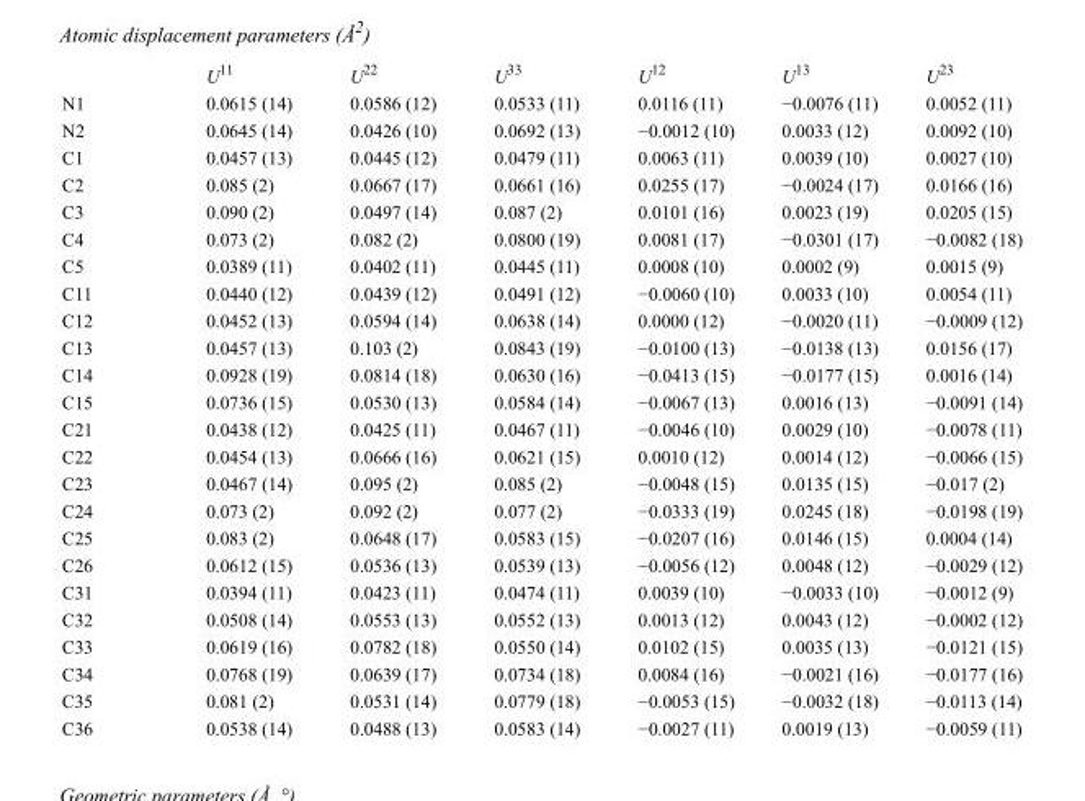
<table><thead><tr><td></td><td>U<sup>11</sup></td><td>U<sup>22</sup></td><td>U<sup>33</sup></td><td>U<sup>12</sup></td><td>U<sup>13</sup></td><td>U<sup>23</sup></td></tr></thead><tbody><tr><td>N1</td><td>0.0615 (14)</td><td>0.0586 (12)</td><td>0.0533 (11)</td><td>0.0116 (11)</td><td>−0.0076 (11)</td><td>0.0052 (11)</td></tr><tr><td>N2</td><td>0.0645 (14)</td><td>0.0426 (10)</td><td>0.0692 (13)</td><td>−0.0012 (10)</td><td>0.0033 (12)</td><td>0.0092 (10)</td></tr><tr><td>C1</td><td>0.0457 (13)</td><td>0.0445 (12)</td><td>0.0479 (11)</td><td>0.0063 (11)</td><td>0.0039 (10)</td><td>0.0027 (10)</td></tr><tr><td>C2</td><td>0.085 (2)</td><td>0.0667 (17)</td><td>0.0661 (16)</td><td>0.0255 (17)</td><td>−0.0024 (17)</td><td>0.0166 (16)</td></tr><tr><td>C3</td><td>0.090 (2)</td><td>0.0497 (14)</td><td>0.087 (2)</td><td>0.0101 (16)</td><td>0.0023 (19)</td><td>0.0205 (15)</td></tr><tr><td>C4</td><td>0.073 (2)</td><td>0.082 (2)</td><td>0.0800 (19)</td><td>0.0081 (17)</td><td>−0.0301 (17)</td><td>−0.0082 (18)</td></tr><tr><td>C5</td><td>0.0389 (11)</td><td>0.0402 (11)</td><td>0.0445 (11)</td><td>0.0008 (10)</td><td>0.0002 (9)</td><td>0.0015 (9)</td></tr><tr><td>C11</td><td>0.0440 (12)</td><td>0.0439 (12)</td><td>0.0491 (12)</td><td>−0.0060 (10)</td><td>0.0033 (10)</td><td>0.0054 (11)</td></tr><tr><td>C12</td><td>0.0452 (13)</td><td>0.0594 (14)</td><td>0.0638 (14)</td><td>0.0000 (12)</td><td>−0.0020 (11)</td><td>−0.0009 (12)</td></tr><tr><td>C13</td><td>0.0457 (13)</td><td>0.103 (2)</td><td>0.0843 (19)</td><td>−0.0100 (13)</td><td>−0.0138 (13)</td><td>0.0156 (17)</td></tr><tr><td>C14</td><td>0.0928 (19)</td><td>0.0814 (18)</td><td>0.0630 (16)</td><td>−0.0413 (15)</td><td>−0.0177 (15)</td><td>0.0016 (14)</td></tr><tr><td>C15</td><td>0.0736 (15)</td><td>0.0530 (13)</td><td>0.0584 (14)</td><td>−0.0067 (13)</td><td>0.0016 (13)</td><td>−0.0091 (14)</td></tr><tr><td>C21</td><td>0.0438 (12)</td><td>0.0425 (11)</td><td>0.0467 (11)</td><td>−0.0046 (10)</td><td>0.0029 (10)</td><td>−0.0078 (11)</td></tr><tr><td>C22</td><td>0.0454 (13)</td><td>0.0666 (16)</td><td>0.0621 (15)</td><td>0.0010 (12)</td><td>0.0014 (12)</td><td>−0.0066 (15)</td></tr><tr><td>C23</td><td>0.0467 (14)</td><td>0.095 (2)</td><td>0.085 (2)</td><td>−0.0048 (15)</td><td>0.0135 (15)</td><td>−0.017 (2)</td></tr><tr><td>C24</td><td>0.073 (2)</td><td>0.092 (2)</td><td>0.077 (2)</td><td>−0.0333 (19)</td><td>0.0245 (18)</td><td>−0.0198 (19)</td></tr><tr><td>C25</td><td>0.083 (2)</td><td>0.0648 (17)</td><td>0.0583 (15)</td><td>−0.0207 (16)</td><td>0.0146 (15)</td><td>0.0004 (14)</td></tr><tr><td>C26</td><td>0.0612 (15)</td><td>0.0536 (13)</td><td>0.0539 (13)</td><td>−0.0056 (12)</td><td>0.0048 (12)</td><td>−0.0029 (12)</td></tr><tr><td>C31</td><td>0.0394 (11)</td><td>0.0423 (11)</td><td>0.0474 (11)</td><td>0.0039 (10)</td><td>−0.0033 (10)</td><td>−0.0012 (9)</td></tr><tr><td>C32</td><td>0.0508 (14)</td><td>0.0553 (13)</td><td>0.0552 (13)</td><td>0.0013 (12)</td><td>0.0043 (12)</td><td>−0.0002 (12)</td></tr><tr><td>C33</td><td>0.0619 (16)</td><td>0.0782 (18)</td><td>0.0550 (14)</td><td>0.0102 (15)</td><td>0.0035 (13)</td><td>−0.0121 (15)</td></tr><tr><td>C34</td><td>0.0768 (19)</td><td>0.0639 (17)</td><td>0.0734 (18)</td><td>0.0084 (16)</td><td>−0.0021 (16)</td><td>−0.0177 (16)</td></tr><tr><td>C35</td><td>0.081 (2)</td><td>0.0531 (14)</td><td>0.0779 (18)</td><td>−0.0053 (15)</td><td>−0.0032 (18)</td><td>−0.0113 (14)</td></tr><tr><td>C36</td><td>0.0538 (14)</td><td>0.0488 (13)</td><td>0.0583 (14)</td><td>−0.0027 (11)</td><td>0.0019 (13)</td><td>−0.0059 (11)</td></tr></tbody></table>